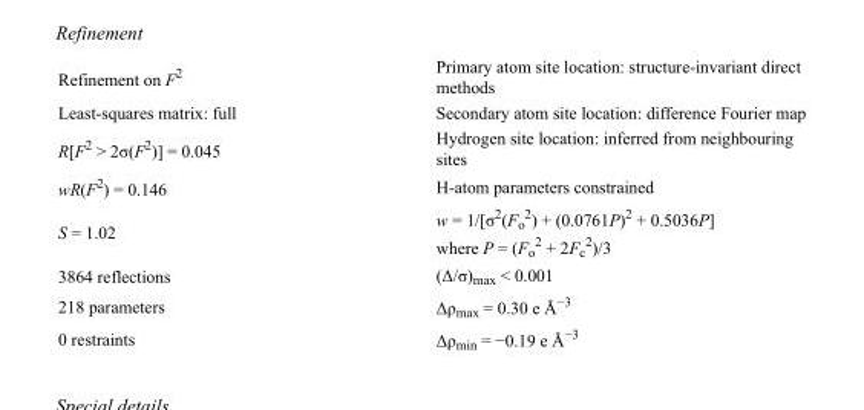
<table><tbody><tr><td>Refinement on F<sup>2</sup></td><td>Primary atom site location: structure-invariant direct methods</td></tr><tr><td>Least-squares matrix: full</td><td>Secondary atom site location: difference Fourier map</td></tr><tr><td>R[F<sup>2</sup> &gt; 2σ(F<sup>2</sup>)] = 0.045</td><td>Hydrogen site location: inferred from neighbouring sites</td></tr><tr><td>wR(F<sup>2</sup>) = 0.146</td><td>H-atom parameters constrained</td></tr><tr><td>S = 1.02</td><td>w = 1/[σ<sup>2</sup>(F<sub>o</sub> <sup>2</sup>) + (0.0761P)<sup>2</sup> + 0.5036P] where P = (F<sub>o</sub> <sup>2</sup> + 2F<sub>c</sub> <sup>2</sup>)/3</td></tr><tr><td>3864 reflections</td><td>(Δ/σ)<sub>max</sub> &lt; 0.001</td></tr><tr><td>218 parameters</td><td>Δρ<sub>max</sub> = 0.30 e Å<sup>−3</sup></td></tr><tr><td>0 restraints</td><td>Δρ<sub>min</sub> = −0.19 e Å<sup>−3</sup></td></tr></tbody></table>